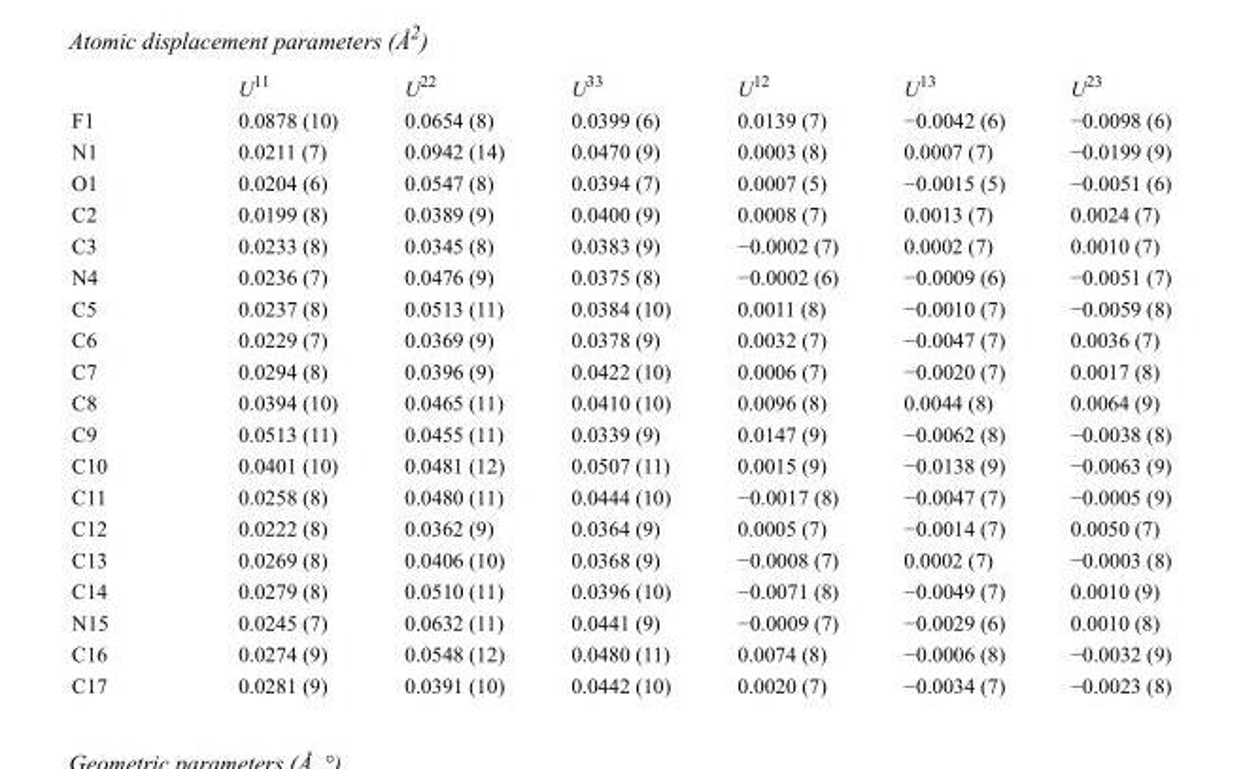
<table><thead><tr><td></td><td>U<sup>11</sup></td><td>U<sup>22</sup></td><td>U<sup>33</sup></td><td>U<sup>12</sup></td><td>U<sup>13</sup></td><td>U<sup>23</sup></td></tr></thead><tbody><tr><td>F1</td><td>0.0878 (10)</td><td>0.0654 (8)</td><td>0.0399 (6)</td><td>0.0139 (7)</td><td>−0.0042 (6)</td><td>−0.0098 (6)</td></tr><tr><td>N1</td><td>0.0211 (7)</td><td>0.0942 (14)</td><td>0.0470 (9)</td><td>0.0003 (8)</td><td>0.0007 (7)</td><td>−0.0199 (9)</td></tr><tr><td>O1</td><td>0.0204 (6)</td><td>0.0547 (8)</td><td>0.0394 (7)</td><td>0.0007 (5)</td><td>−0.0015 (5)</td><td>−0.0051 (6)</td></tr><tr><td>C2</td><td>0.0199 (8)</td><td>0.0389 (9)</td><td>0.0400 (9)</td><td>0.0008 (7)</td><td>0.0013 (7)</td><td>0.0024 (7)</td></tr><tr><td>C3</td><td>0.0233 (8)</td><td>0.0345 (8)</td><td>0.0383 (9)</td><td>−0.0002 (7)</td><td>0.0002 (7)</td><td>0.0010 (7)</td></tr><tr><td>N4</td><td>0.0236 (7)</td><td>0.0476 (9)</td><td>0.0375 (8)</td><td>−0.0002 (6)</td><td>−0.0009 (6)</td><td>−0.0051 (7)</td></tr><tr><td>C5</td><td>0.0237 (8)</td><td>0.0513 (11)</td><td>0.0384 (10)</td><td>0.0011 (8)</td><td>−0.0010 (7)</td><td>−0.0059 (8)</td></tr><tr><td>C6</td><td>0.0229 (7)</td><td>0.0369 (9)</td><td>0.0378 (9)</td><td>0.0032 (7)</td><td>−0.0047 (7)</td><td>0.0036 (7)</td></tr><tr><td>C7</td><td>0.0294 (8)</td><td>0.0396 (9)</td><td>0.0422 (10)</td><td>0.0006 (7)</td><td>−0.0020 (7)</td><td>0.0017 (8)</td></tr><tr><td>C8</td><td>0.0394 (10)</td><td>0.0465 (11)</td><td>0.0410 (10)</td><td>0.0096 (8)</td><td>0.0044 (8)</td><td>0.0064 (9)</td></tr><tr><td>C9</td><td>0.0513 (11)</td><td>0.0455 (11)</td><td>0.0339 (9)</td><td>0.0147 (9)</td><td>−0.0062 (8)</td><td>−0.0038 (8)</td></tr><tr><td>C10</td><td>0.0401 (10)</td><td>0.0481 (12)</td><td>0.0507 (11)</td><td>0.0015 (9)</td><td>−0.0138 (9)</td><td>−0.0063 (9)</td></tr><tr><td>C11</td><td>0.0258 (8)</td><td>0.0480 (11)</td><td>0.0444 (10)</td><td>−0.0017 (8)</td><td>−0.0047 (7)</td><td>−0.0005 (9)</td></tr><tr><td>C12</td><td>0.0222 (8)</td><td>0.0362 (9)</td><td>0.0364 (9)</td><td>0.0005 (7)</td><td>−0.0014 (7)</td><td>0.0050 (7)</td></tr><tr><td>C13</td><td>0.0269 (8)</td><td>0.0406 (10)</td><td>0.0368 (9)</td><td>−0.0008 (7)</td><td>0.0002 (7)</td><td>−0.0003 (8)</td></tr><tr><td>C14</td><td>0.0279 (8)</td><td>0.0510 (11)</td><td>0.0396 (10)</td><td>−0.0071 (8)</td><td>−0.0049 (7)</td><td>0.0010 (9)</td></tr><tr><td>N15</td><td>0.0245 (7)</td><td>0.0632 (11)</td><td>0.0441 (9)</td><td>−0.0009 (7)</td><td>−0.0029 (6)</td><td>0.0010 (8)</td></tr><tr><td>C16</td><td>0.0274 (9)</td><td>0.0548 (12)</td><td>0.0480 (11)</td><td>0.0074 (8)</td><td>−0.0006 (8)</td><td>−0.0032 (9)</td></tr><tr><td>C17</td><td>0.0281 (9)</td><td>0.0391 (10)</td><td>0.0442 (10)</td><td>0.0020 (7)</td><td>−0.0034 (7)</td><td>−0.0023 (8)</td></tr></tbody></table>